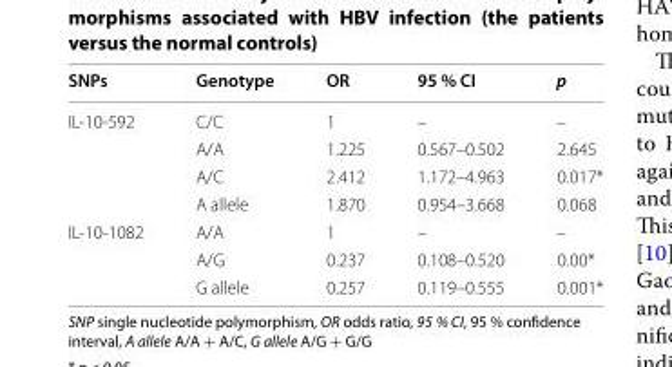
<table><thead><tr><td>SNPs</td><td>Genotype</td><td>OR</td><td>95 % CI</td><td>p</td></tr></thead><tbody><tr><td rowspan="4">IL-10-592</td><td>C/C</td><td>1</td><td>–</td><td>–</td></tr><tr><td>A/A</td><td>1.225</td><td>0.567–0.502</td><td>2.645</td></tr><tr><td>A/C</td><td>2.412</td><td>1.172–4.963</td><td>0.017*</td></tr><tr><td>A allele</td><td>1.870</td><td>0.954–3.668</td><td>0.068</td></tr><tr><td rowspan="3">IL-10-1082</td><td>A/A</td><td>1</td><td>–</td><td>–</td></tr><tr><td>A/G</td><td>0.237</td><td>0.108–0.520</td><td>0.00*</td></tr><tr><td>G allele</td><td>0.257</td><td>0.119–0.555</td><td>0.001*</td></tr></tbody></table>